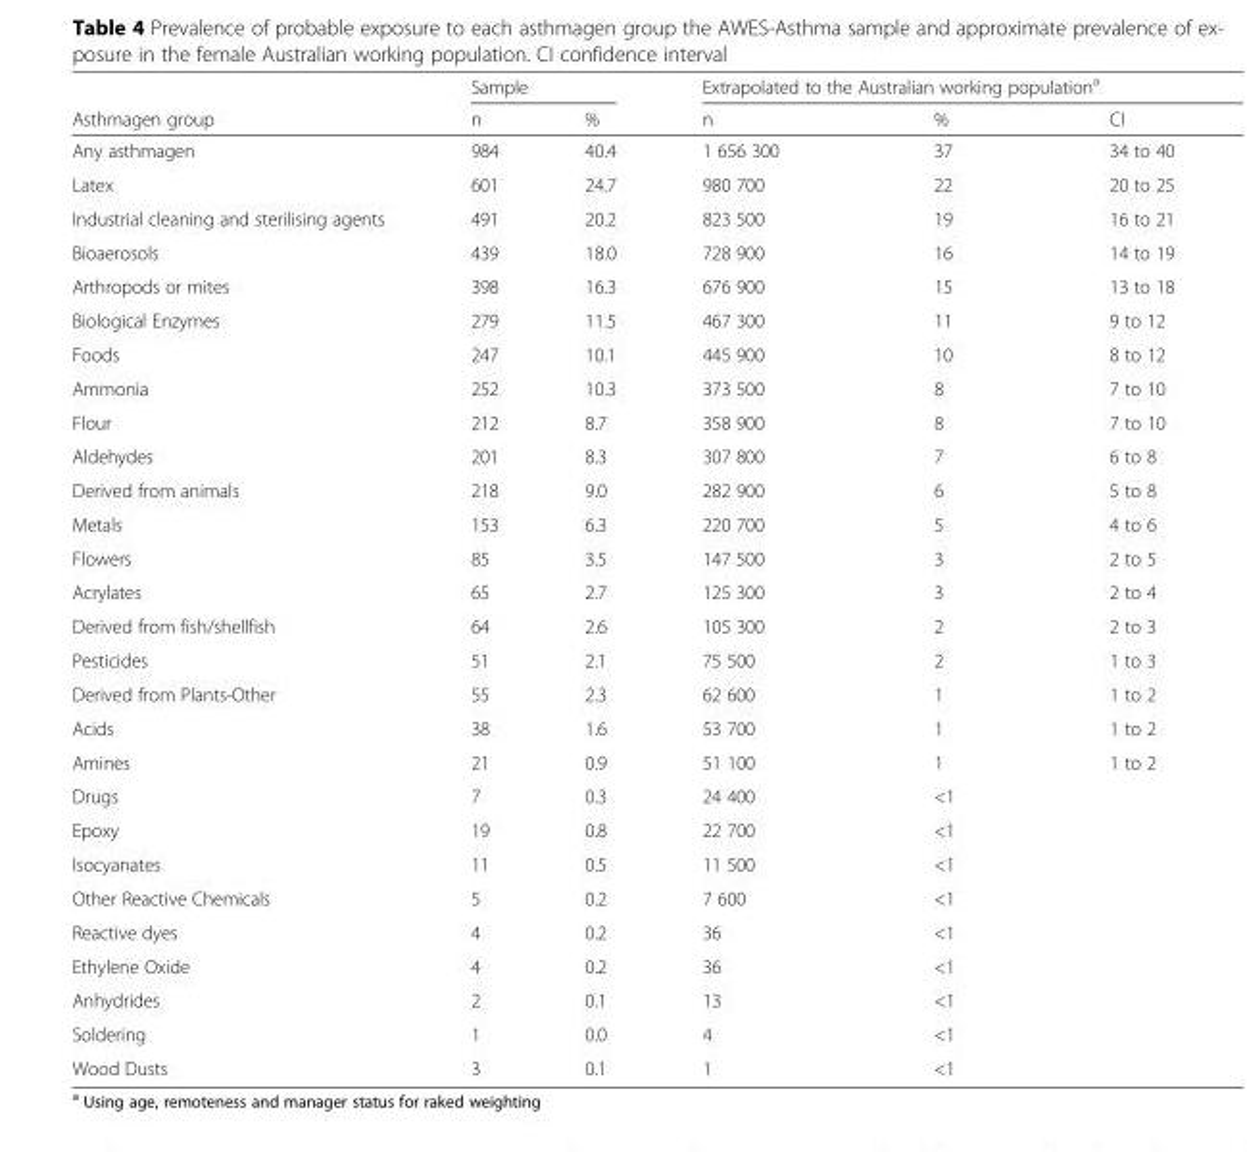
<table><thead><tr><td rowspan="2">Asthmagen group</td><td colspan="2">Sample</td><td colspan="3">Extrapolated to the Australian working population<sup>a</sup></td></tr><tr><td>n</td><td>%</td><td>n</td><td>%</td><td>CI</td></tr></thead><tbody><tr><td>Any asthmagen</td><td>984</td><td>40.4</td><td>1 656 300</td><td>37</td><td>34 to 40</td></tr><tr><td>Latex</td><td>601</td><td>24.7</td><td>980 700</td><td>22</td><td>20 to 25</td></tr><tr><td>Industrial cleaning and sterilising agents</td><td>491</td><td>20.2</td><td>823 500</td><td>19</td><td>16 to 21</td></tr><tr><td>Bioaerosols</td><td>439</td><td>18.0</td><td>728 900</td><td>16</td><td>14 to 19</td></tr><tr><td>Arthropods or mites</td><td>398</td><td>16.3</td><td>676 900</td><td>15</td><td>13 to 18</td></tr><tr><td>Biological Enzymes</td><td>279</td><td>11.5</td><td>467 300</td><td>11</td><td>9 to 12</td></tr><tr><td>Foods</td><td>247</td><td>10.1</td><td>445 900</td><td>10</td><td>8 to 12</td></tr><tr><td>Ammonia</td><td>252</td><td>10.3</td><td>373 500</td><td>8</td><td>7 to 10</td></tr><tr><td>Flour</td><td>212</td><td>8.7</td><td>358 900</td><td>8</td><td>7 to 10</td></tr><tr><td>Aldehydes</td><td>201</td><td>8.3</td><td>307 800</td><td>7</td><td>6 to 8</td></tr><tr><td>Derived from animals</td><td>218</td><td>9.0</td><td>282 900</td><td>6</td><td>5 to 8</td></tr><tr><td>Metals</td><td>153</td><td>6.3</td><td>220 700</td><td>5</td><td>4 to 6</td></tr><tr><td>Flowers</td><td>85</td><td>3.5</td><td>147 500</td><td>3</td><td>2 to 5</td></tr><tr><td>Acrylates</td><td>65</td><td>2.7</td><td>125 300</td><td>3</td><td>2 to 4</td></tr><tr><td>Derived from fish/shellfish</td><td>64</td><td>2.6</td><td>105 300</td><td>2</td><td>2 to 3</td></tr><tr><td>Pesticides</td><td>51</td><td>2.1</td><td>75 500</td><td>2</td><td>1 to 3</td></tr><tr><td>Derived from Plants-Other</td><td>55</td><td>2.3</td><td>62 600</td><td>1</td><td>1 to 2</td></tr><tr><td>Acids</td><td>38</td><td>1.6</td><td>53 700</td><td>1</td><td>1 to 2</td></tr><tr><td>Amines</td><td>21</td><td>0.9</td><td>51 100</td><td>1</td><td>1 to 2</td></tr><tr><td>Drugs</td><td>7</td><td>0.3</td><td>24 400</td><td>&lt;1</td><td></td></tr><tr><td>Epoxy</td><td>19</td><td>0.8</td><td>22 700</td><td>&lt;1</td><td></td></tr><tr><td>Isocyanates</td><td>11</td><td>0.5</td><td>11 500</td><td>&lt;1</td><td></td></tr><tr><td>Other Reactive Chemicals</td><td>5</td><td>0.2</td><td>7 600</td><td>&lt;1</td><td></td></tr><tr><td>Reactive dyes</td><td>4</td><td>0.2</td><td>36</td><td>&lt;1</td><td></td></tr><tr><td>Ethylene Oxide</td><td>4</td><td>0.2</td><td>36</td><td>&lt;1</td><td></td></tr><tr><td>Anhydrides</td><td>2</td><td>0.1</td><td>13</td><td>&lt;1</td><td></td></tr><tr><td>Soldering</td><td>1</td><td>0.0</td><td>4</td><td>&lt;1</td><td></td></tr><tr><td>Wood Dusts</td><td>3</td><td>0.1</td><td>1</td><td>&lt;1</td><td></td></tr></tbody></table>